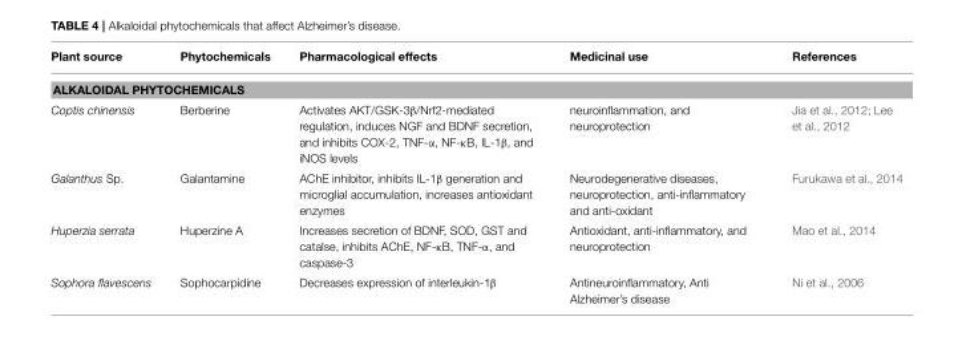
<table><thead><tr><td>Plant source</td><td>Phytochemicals</td><td>Pharmacological effects</td><td>Medicinal use</td><td>References</td></tr></thead><tbody><tr><td colspan="5">ALKALOIDAL PHYTOCHEMICALS</td></tr><tr><td>Coptis chinensis</td><td>Berberine</td><td>Activates AKT/GSK-3β/Nrf2-mediated regulation, induces NGF and BDNF secretion, and inhibits COX-2, TNF-α, NF-κB, IL-1β, and iNOS levels</td><td>neuroinflammation, and neuroprotection</td><td>Jia et al., 2012; Lee et al., 2012</td></tr><tr><td>Galanthus Sp.</td><td>Galantamine</td><td>AChE inhibitor, inhibits IL-1β generation and microglial accumulation, increases antioxidant enzymes</td><td>Neurodegenerative diseases, neuroprotection, anti-inflammatory and anti-oxidant</td><td>Furukawa et al., 2014</td></tr><tr><td>Huperzia serrata</td><td>Huperzine A</td><td>Increases secretion of BDNF, SOD, GST and catalse, inhibits AChE, NF-κB, TNF-α, and caspase-3</td><td>Antioxidant, anti-inflammatory, and neuroprotection</td><td>Mao et al., 2014</td></tr><tr><td>Sophora flavescens</td><td>Sophocarpidine</td><td>Decreases expression of interleukin-1β</td><td>Antineuroinflammatory, Anti Alzheimer’s disease</td><td>Ni et al., 2006</td></tr></tbody></table>